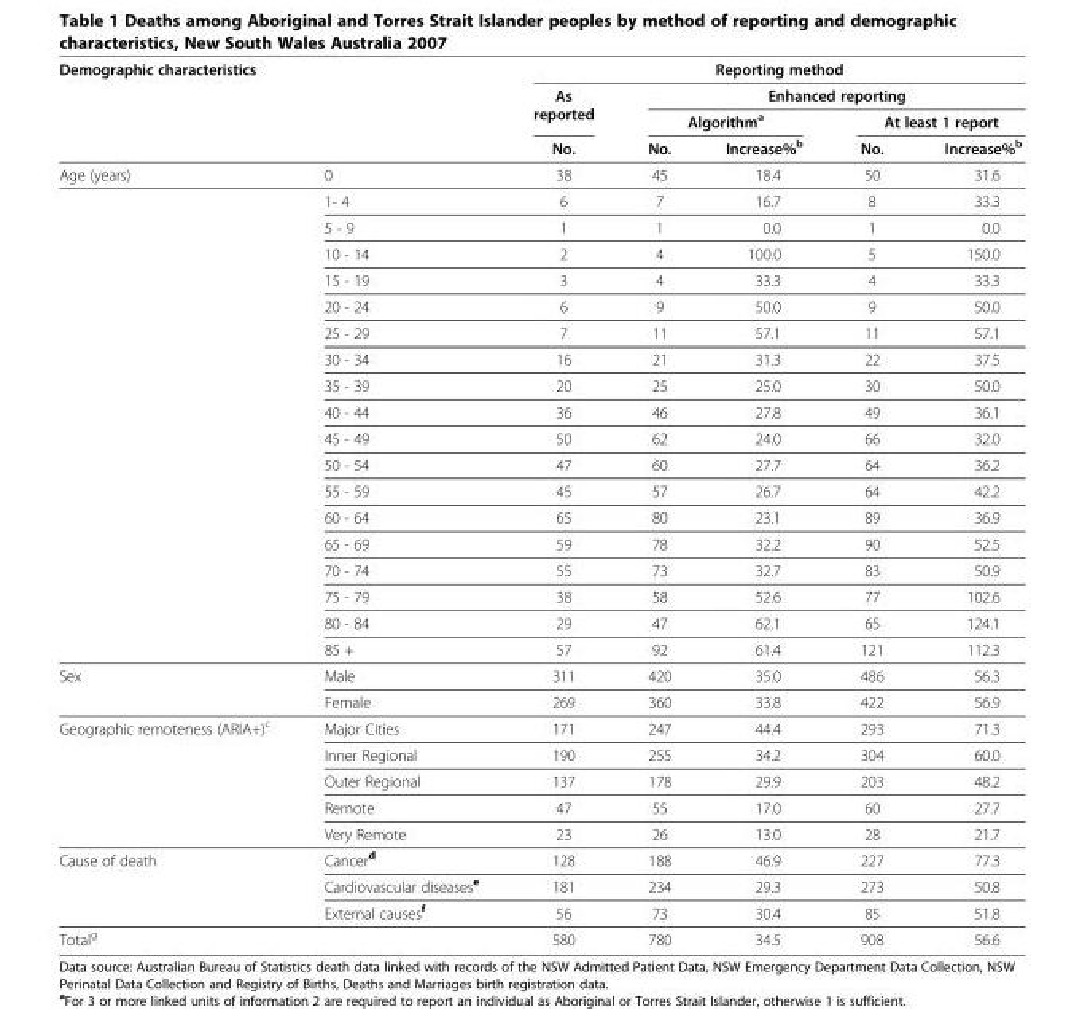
<table><thead><tr><td rowspan="4" colspan="2">Demographic characteristics</td><td colspan="5">Reporting method</td></tr><tr><td rowspan="4">As reported No. 38</td><td colspan="4">Enhanced reporting</td></tr><tr><td colspan="2">Algorithm<sup>a</sup></td><td colspan="2">At least 1 report</td></tr><tr><td rowspan="2">No. 45</td><td rowspan="2">Increase%<sup>b</sup> 18.4</td><td rowspan="2">No. 50</td><td rowspan="2">Increase%<sup>b</sup> 31.6</td></tr><tr><td>Age (years)</td><td>0</td></tr></thead><tbody><tr><td></td><td>1- 4</td><td>6</td><td>7</td><td>16.7</td><td>8</td><td>33.3</td></tr><tr><td></td><td>5 - 9</td><td>1</td><td>1</td><td>0.0</td><td>1</td><td>0.0</td></tr><tr><td></td><td>10 - 14</td><td>2</td><td>4</td><td>100.0</td><td>5</td><td>150.0</td></tr><tr><td></td><td>15 - 19</td><td>3</td><td>4</td><td>33.3</td><td>4</td><td>33.3</td></tr><tr><td></td><td>20 - 24</td><td>6</td><td>9</td><td>50.0</td><td>9</td><td>50.0</td></tr><tr><td></td><td>25 - 29</td><td>7</td><td>11</td><td>57.1</td><td>11</td><td>57.1</td></tr><tr><td></td><td>30 - 34</td><td>16</td><td>21</td><td>31.3</td><td>22</td><td>37.5</td></tr><tr><td></td><td>35 - 39</td><td>20</td><td>25</td><td>25.0</td><td>30</td><td>50.0</td></tr><tr><td></td><td>40 - 44</td><td>36</td><td>46</td><td>27.8</td><td>49</td><td>36.1</td></tr><tr><td></td><td>45 - 49</td><td>50</td><td>62</td><td>24.0</td><td>66</td><td>32.0</td></tr><tr><td></td><td>50 - 54</td><td>47</td><td>60</td><td>27.7</td><td>64</td><td>36.2</td></tr><tr><td></td><td>55 - 59</td><td>45</td><td>57</td><td>26.7</td><td>64</td><td>42.2</td></tr><tr><td></td><td>60 - 64</td><td>65</td><td>80</td><td>23.1</td><td>89</td><td>36.9</td></tr><tr><td></td><td>65 - 69</td><td>59</td><td>78</td><td>32.2</td><td>90</td><td>52.5</td></tr><tr><td></td><td>70 - 74</td><td>55</td><td>73</td><td>32.7</td><td>83</td><td>50.9</td></tr><tr><td></td><td>75 - 79</td><td>38</td><td>58</td><td>52.6</td><td>77</td><td>102.6</td></tr><tr><td></td><td>80 - 84</td><td>29</td><td>47</td><td>62.1</td><td>65</td><td>124.1</td></tr><tr><td></td><td>85 +</td><td>57</td><td>92</td><td>61.4</td><td>121</td><td>112.3</td></tr><tr><td rowspan="2">Sex</td><td>Male</td><td>311</td><td>420</td><td>35.0</td><td>486</td><td>56.3</td></tr><tr><td>Female</td><td>269</td><td>360</td><td>33.8</td><td>422</td><td>56.9</td></tr><tr><td rowspan="5">Geographic remoteness (ARIA+)<sup>c</sup></td><td>Major Cities</td><td>171</td><td>247</td><td>44.4</td><td>293</td><td>71.3</td></tr><tr><td>Inner Regional</td><td>190</td><td>255</td><td>34.2</td><td>304</td><td>60.0</td></tr><tr><td>Outer Regional</td><td>137</td><td>178</td><td>29.9</td><td>203</td><td>48.2</td></tr><tr><td>Remote</td><td>47</td><td>55</td><td>17.0</td><td>60</td><td>27.7</td></tr><tr><td>Very Remote</td><td>23</td><td>26</td><td>13.0</td><td>28</td><td>21.7</td></tr><tr><td rowspan="3">Cause of death</td><td>Cancer<sup>d</sup></td><td>128</td><td>188</td><td>46.9</td><td>227</td><td>77.3</td></tr><tr><td>Cardiovascular diseases<sup>e</sup></td><td>181</td><td>234</td><td>29.3</td><td>273</td><td>50.8</td></tr><tr><td>External causes<sup>f</sup></td><td>56</td><td>73</td><td>30.4</td><td>85</td><td>51.8</td></tr><tr><td>Total<sup>g</sup></td><td></td><td>580</td><td>780</td><td>34.5</td><td>908</td><td>56.6</td></tr></tbody></table>